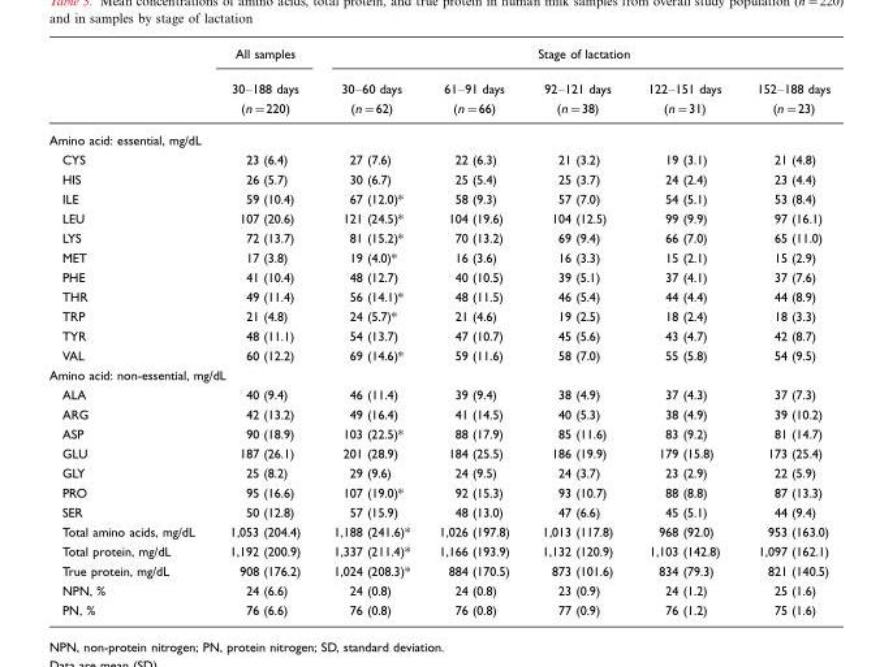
<table><thead><tr><td rowspan="2"></td><td rowspan="2">All samples 30–188 days (n=220)</td><td colspan="5">Stage of lactation</td></tr><tr><td>30–60 days (n=62)</td><td>61–91 days (n=66)</td><td>92–121 days (n=38)</td><td>122–151 days (n=31)</td><td>152–188 days (n=23)</td></tr></thead><tbody><tr><td colspan="7">Amino acid: essential, mg/dL</td></tr><tr><td>CYS</td><td>23 (6.4)</td><td>27 (7.6)</td><td>22 (6.3)</td><td>21 (3.2)</td><td>19 (3.1)</td><td>21 (4.8)</td></tr><tr><td>HIS</td><td>26 (5.7)</td><td>30 (6.7)</td><td>25 (5.4)</td><td>25 (3.7)</td><td>24 (2.4)</td><td>23 (4.4)</td></tr><tr><td>ILE</td><td>59 (10.4)</td><td>67 (12.0)*</td><td>58 (9.3)</td><td>57 (7.0)</td><td>54 (5.1)</td><td>53 (8.4)</td></tr><tr><td>LEU</td><td>107 (20.6)</td><td>121 (24.5)*</td><td>104 (19.6)</td><td>104 (12.5)</td><td>99 (9.9)</td><td>97 (16.1)</td></tr><tr><td>LYS</td><td>72 (13.7)</td><td>81 (15.2)*</td><td>70 (13.2)</td><td>69 (9.4)</td><td>66 (7.0)</td><td>65 (11.0)</td></tr><tr><td>MET</td><td>17 (3.8)</td><td>19 (4.0)*</td><td>16 (3.6)</td><td>16 (3.3)</td><td>15 (2.1)</td><td>15 (2.9)</td></tr><tr><td>PHE</td><td>41 (10.4)</td><td>48 (12.7)</td><td>40 (10.5)</td><td>39 (5.1)</td><td>37 (4.1)</td><td>37 (7.6)</td></tr><tr><td>THR</td><td>49 (11.4)</td><td>56 (14.1)*</td><td>48 (11.5)</td><td>46 (5.4)</td><td>44 (4.4)</td><td>44 (8.9)</td></tr><tr><td>TRP</td><td>21 (4.8)</td><td>24 (5.7)*</td><td>21 (4.6)</td><td>19 (2.5)</td><td>18 (2.4)</td><td>18 (3.3)</td></tr><tr><td>TYR</td><td>48 (11.1)</td><td>54 (13.7)</td><td>47 (10.7)</td><td>45 (5.6)</td><td>43 (4.7)</td><td>42 (8.7)</td></tr><tr><td>VAL</td><td>60 (12.2)</td><td>69 (14.6)*</td><td>59 (11.6)</td><td>58 (7.0)</td><td>55 (5.8)</td><td>54 (9.5)</td></tr><tr><td colspan="7">Amino acid: non-essential, mg/dL</td></tr><tr><td>ALA</td><td>40 (9.4)</td><td>46 (11.4)</td><td>39 (9.4)</td><td>38 (4.9)</td><td>37 (4.3)</td><td>37 (7.3)</td></tr><tr><td>ARG</td><td>42 (13.2)</td><td>49 (16.4)</td><td>41 (14.5)</td><td>40 (5.3)</td><td>38 (4.9)</td><td>39 (10.2)</td></tr><tr><td>ASP</td><td>90 (18.9)</td><td>103 (22.5)*</td><td>88 (17.9)</td><td>85 (11.6)</td><td>83 (9.2)</td><td>81 (14.7)</td></tr><tr><td>GLU</td><td>187 (26.1)</td><td>201 (28.9)</td><td>184 (25.5)</td><td>186 (19.9)</td><td>179 (15.8)</td><td>173 (25.4)</td></tr><tr><td>GLY</td><td>25 (8.2)</td><td>29 (9.6)</td><td>24 (9.5)</td><td>24 (3.7)</td><td>23 (2.9)</td><td>22 (5.9)</td></tr><tr><td>PRO</td><td>95 (16.6)</td><td>107 (19.0)*</td><td>92 (15.3)</td><td>93 (10.7)</td><td>88 (8.8)</td><td>87 (13.3)</td></tr><tr><td>SER</td><td>50 (12.8)</td><td>57 (15.9)</td><td>48 (13.0)</td><td>47 (6.6)</td><td>45 (5.1)</td><td>44 (9.4)</td></tr><tr><td>Total amino acids, mg/dL</td><td>1,053 (204.4)</td><td>1,188 (241.6)*</td><td>1,026 (197.8)</td><td>1,013 (117.8)</td><td>968 (92.0)</td><td>953 (163.0)</td></tr><tr><td>Total protein, mg/dL</td><td>1,192 (200.9)</td><td>1,337 (211.4)*</td><td>1,166 (193.9)</td><td>1,132 (120.9)</td><td>1,103 (142.8)</td><td>1,097 (162.1)</td></tr><tr><td>True protein, mg/dL</td><td>908 (176.2)</td><td>1,024 (208.3)*</td><td>884 (170.5)</td><td>873 (101.6)</td><td>834 (79.3)</td><td>821 (140.5)</td></tr><tr><td>NPN, %</td><td>24 (6.6)</td><td>24 (0.8)</td><td>24 (0.8)</td><td>23 (0.9)</td><td>24 (1.2)</td><td>25 (1.6)</td></tr><tr><td>PN, %</td><td>76 (6.6)</td><td>76 (0.8)</td><td>76 (0.8)</td><td>77 (0.9)</td><td>76 (1.2)</td><td>75 (1.6)</td></tr></tbody></table>